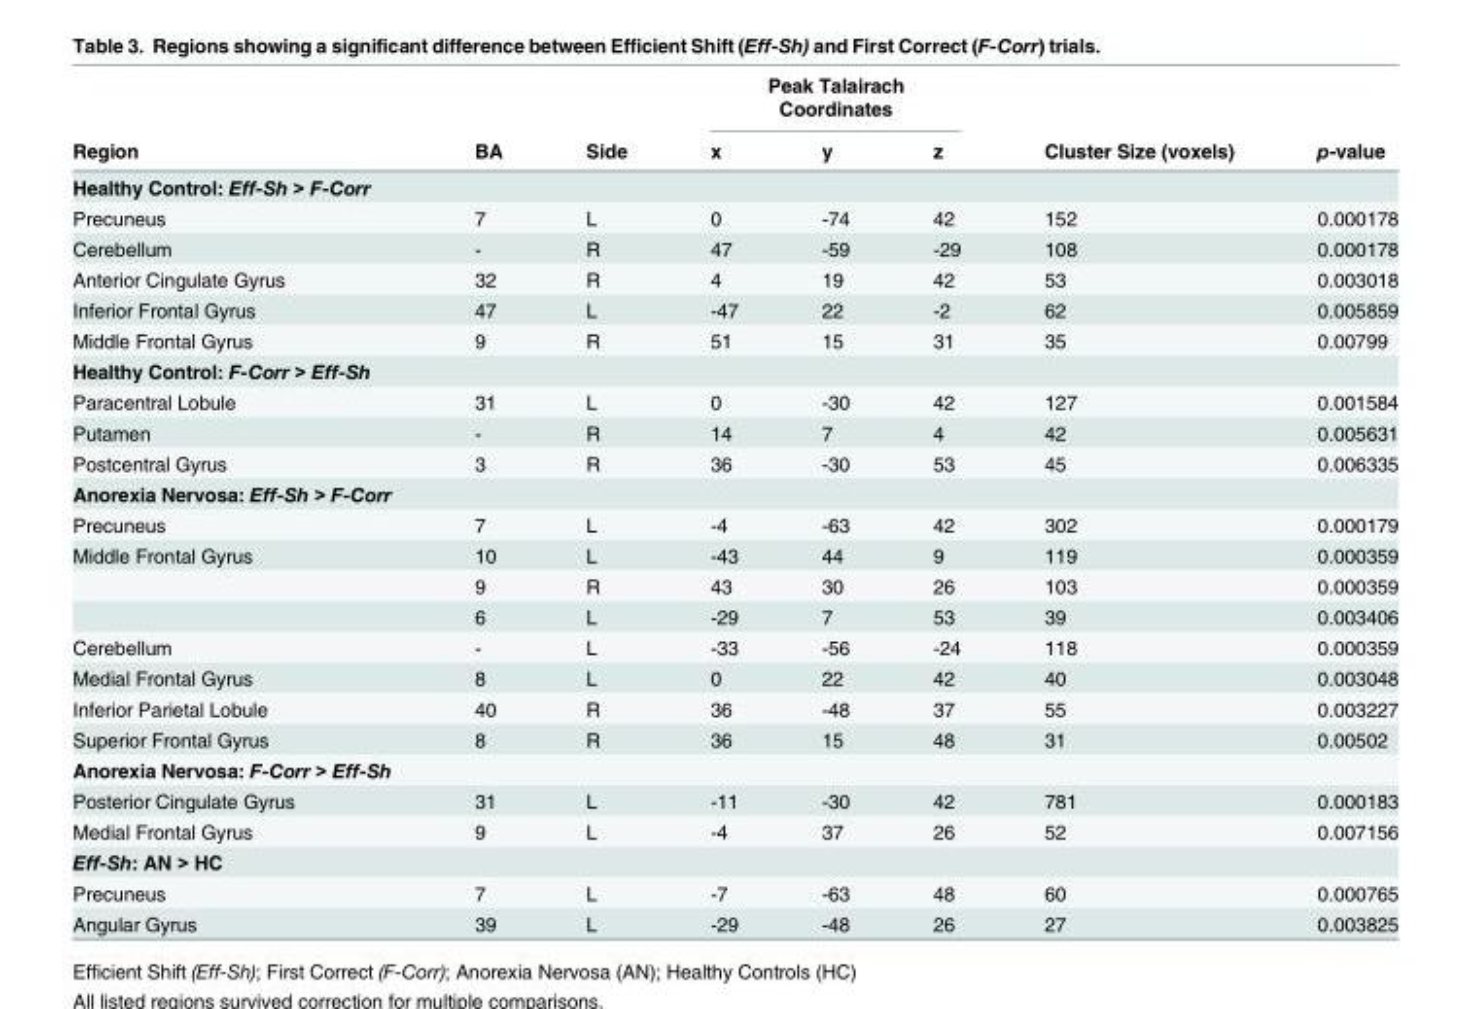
<table><thead><tr><td rowspan="2">Region</td><td rowspan="2">BA</td><td rowspan="2">Side</td><td colspan="3">Peak Talairach Coordinates</td><td rowspan="2">Cluster Size (voxels)</td><td rowspan="2">p-value</td></tr><tr><td>x</td><td>y</td><td>z</td></tr></thead><tbody><tr><td colspan="8">Healthy Control: Eff-Sh &gt; F-Corr</td></tr><tr><td>Precuneus</td><td>7</td><td>L</td><td>0</td><td>-74</td><td>42</td><td>152</td><td>0.000178</td></tr><tr><td>Cerebellum</td><td>-</td><td>R</td><td>47</td><td>-59</td><td>-29</td><td>108</td><td>0.000178</td></tr><tr><td>Anterior Cingulate Gyrus</td><td>32</td><td>R</td><td>4</td><td>19</td><td>42</td><td>53</td><td>0.003018</td></tr><tr><td>Inferior Frontal Gyrus</td><td>47</td><td>L</td><td>-47</td><td>22</td><td>-2</td><td>62</td><td>0.005859</td></tr><tr><td>Middle Frontal Gyrus</td><td>9</td><td>R</td><td>51</td><td>15</td><td>31</td><td>35</td><td>0.00799</td></tr><tr><td colspan="8">Healthy Control: F-Corr &gt; Eff-Sh</td></tr><tr><td>Paracentral Lobule</td><td>31</td><td>L</td><td>0</td><td>-30</td><td>42</td><td>127</td><td>0.001584</td></tr><tr><td>Putamen</td><td>-</td><td>R</td><td>14</td><td>7</td><td>4</td><td>42</td><td>0.005631</td></tr><tr><td>Postcentral Gyrus</td><td>3</td><td>R</td><td>36</td><td>-30</td><td>53</td><td>45</td><td>0.006335</td></tr><tr><td colspan="8">Anorexia Nervosa: Eff-Sh &gt; F-Corr</td></tr><tr><td>Precuneus</td><td>7</td><td>L</td><td>-4</td><td>-63</td><td>42</td><td>302</td><td>0.000179</td></tr><tr><td rowspan="3">Middle Frontal Gyrus</td><td>10</td><td>L</td><td>-43</td><td>44</td><td>9</td><td>119</td><td>0.000359</td></tr><tr><td>9</td><td>R</td><td>43</td><td>30</td><td>26</td><td>103</td><td>0.000359</td></tr><tr><td>6</td><td>L</td><td>-29</td><td>7</td><td>53</td><td>39</td><td>0.003406</td></tr><tr><td>Cerebellum</td><td>-</td><td>L</td><td>-33</td><td>-56</td><td>-24</td><td>118</td><td>0.000359</td></tr><tr><td>Medial Frontal Gyrus</td><td>8</td><td>L</td><td>0</td><td>22</td><td>42</td><td>40</td><td>0.003048</td></tr><tr><td>Inferior Parietal Lobule</td><td>40</td><td>R</td><td>36</td><td>-48</td><td>37</td><td>55</td><td>0.003227</td></tr><tr><td>Superior Frontal Gyrus</td><td>8</td><td>R</td><td>36</td><td>15</td><td>48</td><td>31</td><td>0.00502</td></tr><tr><td colspan="8">Anorexia Nervosa: F-Corr &gt; Eff-Sh</td></tr><tr><td>Posterior Cingulate Gyrus</td><td>31</td><td>L</td><td>-11</td><td>-30</td><td>42</td><td>781</td><td>0.000183</td></tr><tr><td>Medial Frontal Gyrus</td><td>9</td><td>L</td><td>-4</td><td>37</td><td>26</td><td>52</td><td>0.007156</td></tr><tr><td colspan="8">Eff-Sh: AN &gt; HC</td></tr><tr><td>Precuneus</td><td>7</td><td>L</td><td>-7</td><td>-63</td><td>48</td><td>60</td><td>0.000765</td></tr><tr><td>Angular Gyrus</td><td>39</td><td>L</td><td>-29</td><td>-48</td><td>26</td><td>27</td><td>0.003825</td></tr></tbody></table>